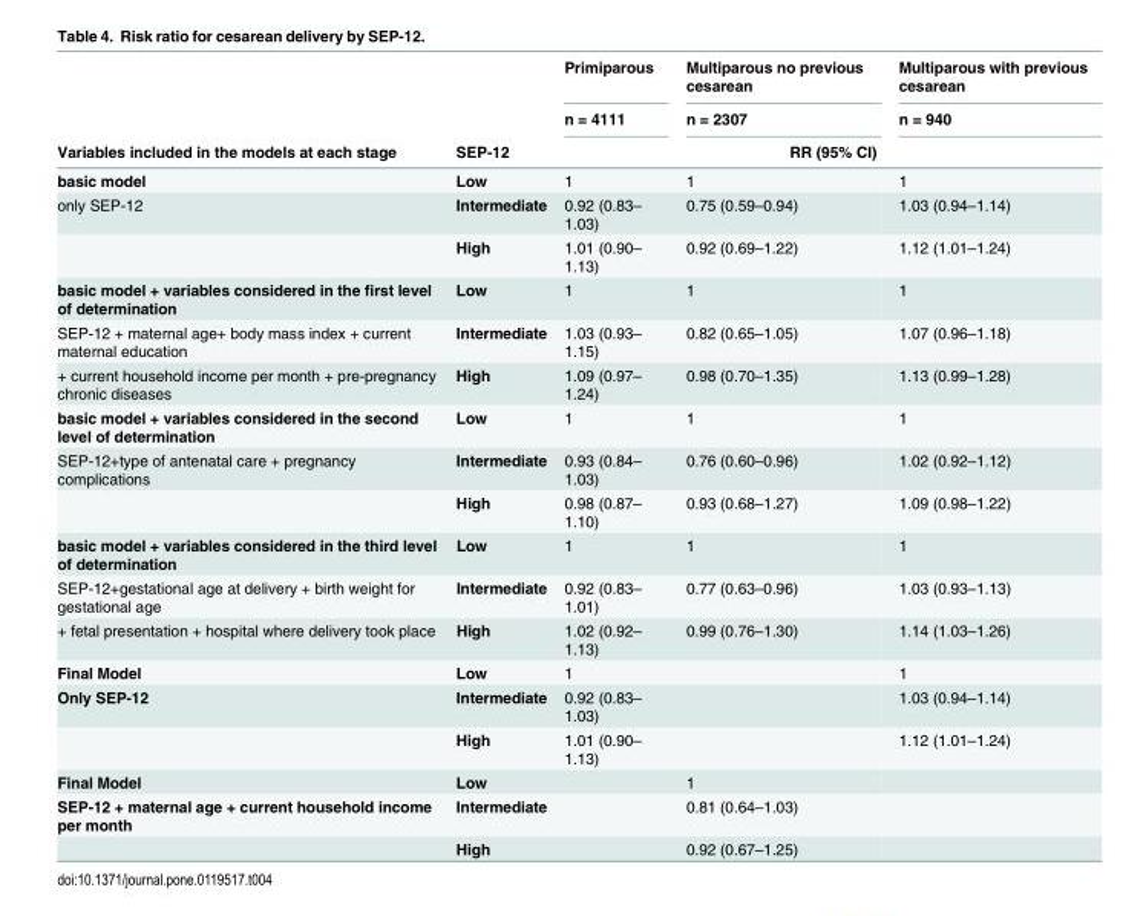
<table><thead><tr><td rowspan="3">Variables included in the models at each stage</td><td rowspan="3">SEP-12</td><td rowspan="2">Primiparous n = 4111</td><td rowspan="2">Multiparous no previous cesarean n = 2307</td><td rowspan="2">Multiparous with previous cesarean n = 940</td></tr><tr></tr><tr><td colspan="3">RR (95% CI)</td></tr></thead><tbody><tr><td>basic model</td><td>Low</td><td>1</td><td>1</td><td>1</td></tr><tr><td rowspan="2">only SEP-12</td><td>Intermediate</td><td>0.92 (0.83– 1.03)</td><td>0.75 (0.59–0.94)</td><td>1.03 (0.94–1.14)</td></tr><tr><td>High</td><td>1.01 (0.90– 1.13)</td><td>0.92 (0.69–1.22)</td><td>1.12 (1.01–1.24)</td></tr><tr><td>basic model + variables considered in the first level of determination</td><td>Low</td><td>1</td><td>1</td><td>1</td></tr><tr><td>SEP-12 + maternal age+ body mass index + current maternal education</td><td>Intermediate</td><td>1.03 (0.93– 1.15)</td><td>0.82 (0.65–1.05)</td><td>1.07 (0.96–1.18)</td></tr><tr><td>+ current household income per month + pre-pregnancy chronic diseases</td><td>High</td><td>1.09 (0.97– 1.24)</td><td>0.98 (0.70–1.35)</td><td>1.13 (0.99–1.28)</td></tr><tr><td>basic model + variables considered in the second level of determination</td><td>Low</td><td>1</td><td>1</td><td>1</td></tr><tr><td rowspan="2">SEP-12+type of antenatal care + pregnancy complications</td><td>Intermediate</td><td>0.93 (0.84– 1.03)</td><td>0.76 (0.60–0.96)</td><td>1.02 (0.92–1.12)</td></tr><tr><td>High</td><td>0.98 (0.87– 1.10)</td><td>0.93 (0.68–1.27)</td><td>1.09 (0.98–1.22)</td></tr><tr><td>basic model + variables considered in the third level of determination</td><td>Low</td><td>1</td><td>1</td><td>1</td></tr><tr><td>SEP-12+gestational age at delivery + birth weight for gestational age</td><td>Intermediate</td><td>0.92 (0.83– 1.01)</td><td>0.77 (0.63–0.96)</td><td>1.03 (0.93–1.13)</td></tr><tr><td>+ fetal presentation + hospital where delivery took place</td><td>High</td><td>1.02 (0.92– 1.13)</td><td>0.99 (0.76–1.30)</td><td>1.14 (1.03–1.26)</td></tr><tr><td>Final Model</td><td>Low</td><td>1</td><td></td><td>1</td></tr><tr><td rowspan="2">Only SEP-12</td><td>Intermediate</td><td>0.92 (0.83– 1.03)</td><td></td><td>1.03 (0.94–1.14)</td></tr><tr><td>High</td><td>1.01 (0.90– 1.13)</td><td></td><td>1.12 (1.01–1.24)</td></tr><tr><td>Final Model</td><td>Low</td><td></td><td>1</td><td></td></tr><tr><td rowspan="2">SEP-12 + maternal age + current household income per month</td><td>Intermediate</td><td></td><td>0.81 (0.64–1.03)</td><td></td></tr><tr><td>High</td><td></td><td>0.92 (0.67–1.25)</td><td></td></tr></tbody></table>